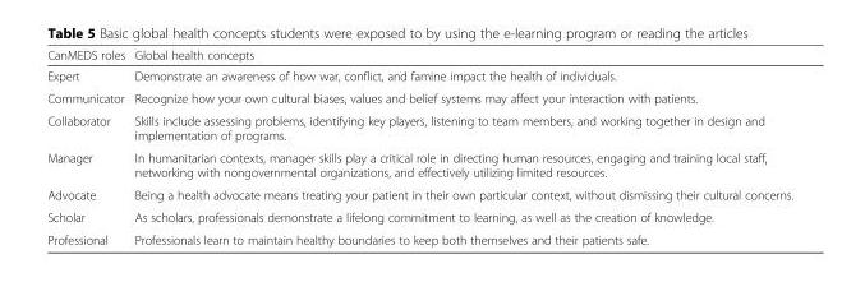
<table><thead><tr><td>CanMEDS roles</td><td>Global health concepts</td></tr></thead><tbody><tr><td>Expert</td><td>Demonstrate an awareness of how war, conflict, and famine impact the health of individuals.</td></tr><tr><td>Communicator</td><td>Recognize how your own cultural biases, values and belief systems may affect your interaction with patients.</td></tr><tr><td>Collaborator</td><td>Skills include assessing problems, identifying key players, listening to team members, and working together in design and implementation of programs.</td></tr><tr><td>Manager</td><td>In humanitarian contexts, manager skills play a critical role in directing human resources, engaging and training local staff, networking with nongovernmental organizations, and effectively utilizing limited resources.</td></tr><tr><td>Advocate</td><td>Being a health advocate means treating your patient in their own particular context, without dismissing their cultural concerns.</td></tr><tr><td>Scholar</td><td>As scholars, professionals demonstrate a lifelong commitment to learning, as well as the creation of knowledge.</td></tr><tr><td>Professional</td><td>Professionals learn to maintain healthy boundaries to keep both themselves and their patients safe.</td></tr></tbody></table>